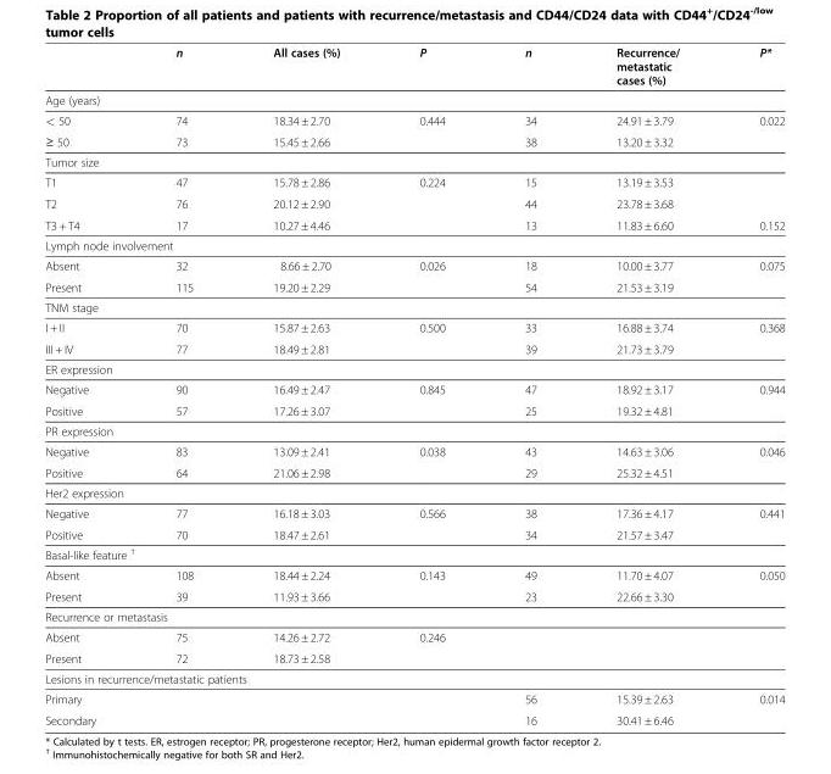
<table><thead><tr><td></td><td>n</td><td>All cases (%)</td><td>P</td><td>n</td><td>Recurrence/ metastatic cases (%)</td><td>P*</td></tr></thead><tbody><tr><td colspan="7">Age (years)</td></tr><tr><td>&lt; 50</td><td>74</td><td>18.34 ± 2.70</td><td>0.444</td><td>34</td><td>24.91 ± 3.79</td><td>0.022</td></tr><tr><td>≥ 50</td><td>73</td><td>15.45 ± 2.66</td><td></td><td>38</td><td>13.20 ± 3.32</td><td></td></tr><tr><td colspan="7">Tumor size</td></tr><tr><td>T1</td><td>47</td><td>15.78 ± 2.86</td><td>0.224</td><td>15</td><td>13.19 ± 3.53</td><td></td></tr><tr><td>T2</td><td>76</td><td>20.12 ± 2.90</td><td></td><td>44</td><td>23.78 ± 3.68</td><td></td></tr><tr><td>T3 + T4</td><td>17</td><td>10.27 ± 4.46</td><td></td><td>13</td><td>11.83 ± 6.60</td><td>0.152</td></tr><tr><td colspan="7">Lymph node involvement</td></tr><tr><td>Absent</td><td>32</td><td>8.66 ± 2.70</td><td>0.026</td><td>18</td><td>10.00 ± 3.77</td><td>0.075</td></tr><tr><td>Present</td><td>115</td><td>19.20 ± 2.29</td><td></td><td>54</td><td>21.53 ± 3.19</td><td></td></tr><tr><td colspan="7">TNM stage</td></tr><tr><td>I + II</td><td>70</td><td>15.87 ± 2.63</td><td>0.500</td><td>33</td><td>16.88 ± 3.74</td><td>0.368</td></tr><tr><td>III + IV</td><td>77</td><td>18.49 ± 2.81</td><td></td><td>39</td><td>21.73 ± 3.79</td><td></td></tr><tr><td colspan="7">ER expression</td></tr><tr><td>Negative</td><td>90</td><td>16.49 ± 2.47</td><td>0.845</td><td>47</td><td>18.92 ± 3.17</td><td>0.944</td></tr><tr><td>Positive</td><td>57</td><td>17.26 ± 3.07</td><td></td><td>25</td><td>19.32 ± 4.81</td><td></td></tr><tr><td colspan="7">PR expression</td></tr><tr><td>Negative</td><td>83</td><td>13.09 ± 2.41</td><td>0.038</td><td>43</td><td>14.63 ± 3.06</td><td>0.046</td></tr><tr><td>Positive</td><td>64</td><td>21.06 ± 2.98</td><td></td><td>29</td><td>25.32 ± 4.51</td><td></td></tr><tr><td colspan="7">Her2 expression</td></tr><tr><td>Negative</td><td>77</td><td>16.18 ± 3.03</td><td>0.566</td><td>38</td><td>17.36 ± 4.17</td><td>0.441</td></tr><tr><td>Positive</td><td>70</td><td>18.47 ± 2.61</td><td></td><td>34</td><td>21.57 ± 3.47</td><td></td></tr><tr><td colspan="7">Basal-like feature <sup>†</sup></td></tr><tr><td>Absent</td><td>108</td><td>18.44 ± 2.24</td><td>0.143</td><td>49</td><td>11.70 ± 4.07</td><td>0.050</td></tr><tr><td>Present</td><td>39</td><td>11.93 ± 3.66</td><td></td><td>23</td><td>22.66 ± 3.30</td><td></td></tr><tr><td colspan="7">Recurrence or metastasis</td></tr><tr><td>Absent</td><td>75</td><td>14.26 ± 2.72</td><td>0.246</td><td></td><td></td><td></td></tr><tr><td>Present</td><td>72</td><td>18.73 ± 2.58</td><td></td><td></td><td></td><td></td></tr><tr><td colspan="7">Lesions in recurrence/metastatic patients</td></tr><tr><td>Primary</td><td></td><td></td><td></td><td>56</td><td>15.39 ± 2.63</td><td>0.014</td></tr><tr><td>Secondary</td><td></td><td></td><td></td><td>16</td><td>30.41 ± 6.46</td><td></td></tr></tbody></table>